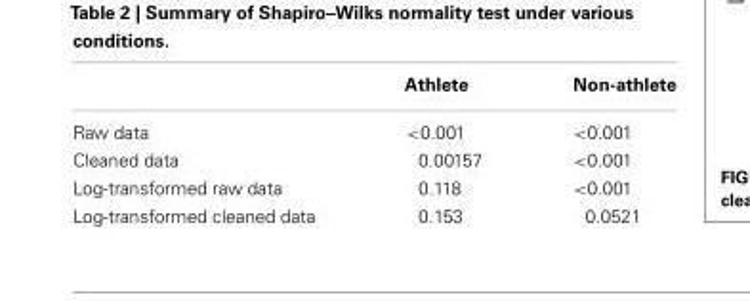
<table><thead><tr><td></td><td>Athlete</td><td>Non-athlete</td></tr></thead><tbody><tr><td>Raw data</td><td>&lt;0.001</td><td>&lt;0.001</td></tr><tr><td>Cleaned data</td><td>0.00157</td><td>&lt;0.001</td></tr><tr><td>Log-transformed raw data</td><td>0.118</td><td>&lt;0.001</td></tr><tr><td>Log-transformed cleaned data</td><td>0.153</td><td>0.0521</td></tr></tbody></table>